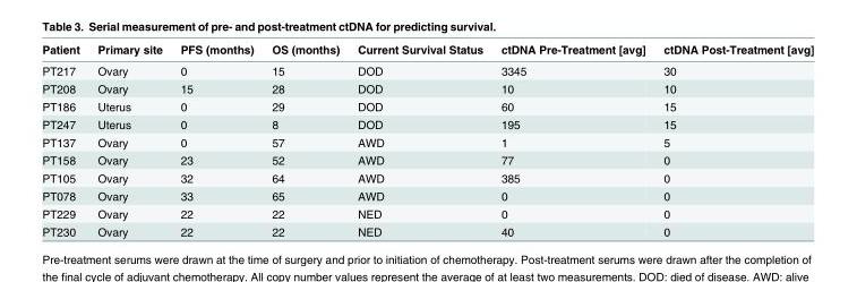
<table><thead><tr><td>Patient</td><td>Primary site</td><td>PFS (months)</td><td>OS (months)</td><td>Current Survival Status</td><td>ctDNA Pre-Treatment [avg]</td><td>ctDNA Post-Treatment [avg]</td></tr></thead><tbody><tr><td>PT217</td><td>Ovary</td><td>0</td><td>15</td><td>DOD</td><td>3345</td><td>30</td></tr><tr><td>PT208</td><td>Ovary</td><td>15</td><td>28</td><td>DOD</td><td>10</td><td>10</td></tr><tr><td>PT186</td><td>Uterus</td><td>0</td><td>29</td><td>DOD</td><td>60</td><td>15</td></tr><tr><td>PT247</td><td>Uterus</td><td>0</td><td>8</td><td>DOD</td><td>195</td><td>15</td></tr><tr><td>PT137</td><td>Ovary</td><td>0</td><td>57</td><td>AWD</td><td>1</td><td>5</td></tr><tr><td>PT158</td><td>Ovary</td><td>23</td><td>52</td><td>AWD</td><td>77</td><td>0</td></tr><tr><td>PT105</td><td>Ovary</td><td>32</td><td>64</td><td>AWD</td><td>385</td><td>0</td></tr><tr><td>PT078</td><td>Ovary</td><td>33</td><td>65</td><td>AWD</td><td>0</td><td>0</td></tr><tr><td>PT229</td><td>Ovary</td><td>22</td><td>22</td><td>NED</td><td>0</td><td>0</td></tr><tr><td>PT230</td><td>Ovary</td><td>22</td><td>22</td><td>NED</td><td>40</td><td>0</td></tr></tbody></table>